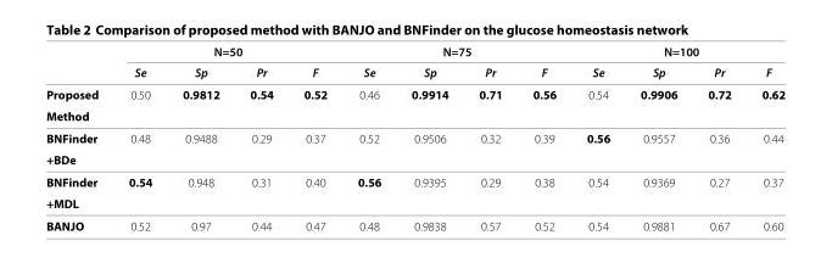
<table><thead><tr><td rowspan="2"></td><td colspan="4">N=50</td><td colspan="4">N=75</td><td colspan="4">N=100</td></tr><tr><td>Se</td><td>Sp</td><td>Pr</td><td>F</td><td>Se</td><td>Sp</td><td>Pr</td><td>F</td><td>Se</td><td>Sp</td><td>Pr</td><td>F</td></tr></thead><tbody><tr><td>Proposed</td><td>0.50</td><td>0.9812</td><td>0.54</td><td>0.52</td><td>0.46</td><td>0.9914</td><td>0.71</td><td>0.56</td><td>0.54</td><td>0.9906</td><td>0.72</td><td>0.62</td></tr><tr><td colspan="13">Method</td></tr><tr><td>BNFinder</td><td>0.48</td><td>0.9488</td><td>0.29</td><td>0.37</td><td>0.52</td><td>0.9506</td><td>0.32</td><td>0.39</td><td>0.56</td><td>0.9557</td><td>0.36</td><td>0.44</td></tr><tr><td colspan="13">+BDe</td></tr><tr><td>BNFinder</td><td>0.54</td><td>0.948</td><td>0.31</td><td>0.40</td><td>0.56</td><td>0.9395</td><td>0.29</td><td>0.38</td><td>0.54</td><td>0.9369</td><td>0.27</td><td>0.37</td></tr><tr><td colspan="13">+MDL</td></tr><tr><td>BANJO</td><td>0.52</td><td>0.97</td><td>0.44</td><td>0.47</td><td>0.48</td><td>0.9838</td><td>0.57</td><td>0.52</td><td>0.54</td><td>0.9881</td><td>0.67</td><td>0.60</td></tr></tbody></table>